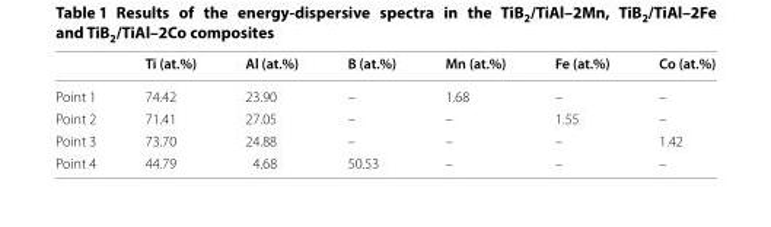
<table><thead><tr><td></td><td>Ti (at.%)</td><td>Al (at.%)</td><td>B (at.%)</td><td>Mn (at.%)</td><td>Fe (at.%)</td><td>Co (at.%)</td></tr></thead><tbody><tr><td>Point 1</td><td>74.42</td><td>23.90</td><td>–</td><td>1.68</td><td>–</td><td>–</td></tr><tr><td>Point 2</td><td>71.41</td><td>27.05</td><td>–</td><td>–</td><td>1.55</td><td>–</td></tr><tr><td>Point 3</td><td>73.70</td><td>24.88</td><td>–</td><td>–</td><td>–</td><td>1.42</td></tr><tr><td>Point 4</td><td>44.79</td><td>4.68</td><td>50.53</td><td>–</td><td>–</td><td>–</td></tr></tbody></table>